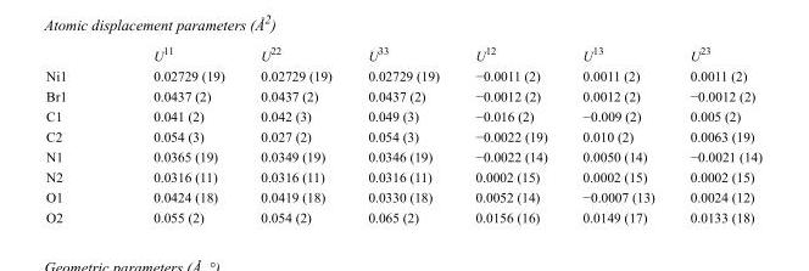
<table><thead><tr><td></td><td>U<sup>11</sup></td><td>U<sup>22</sup></td><td>U<sup>33</sup></td><td>U<sup>12</sup></td><td>U<sup>13</sup></td><td>U<sup>23</sup></td></tr></thead><tbody><tr><td>Ni1</td><td>0.02729 (19)</td><td>0.02729 (19)</td><td>0.02729 (19)</td><td>−0.0011 (2)</td><td>0.0011 (2)</td><td>0.0011 (2)</td></tr><tr><td>Br1</td><td>0.0437 (2)</td><td>0.0437 (2)</td><td>0.0437 (2)</td><td>−0.0012 (2)</td><td>0.0012 (2)</td><td>−0.0012 (2)</td></tr><tr><td>C1</td><td>0.041 (2)</td><td>0.042 (3)</td><td>0.049 (3)</td><td>−0.016 (2)</td><td>−0.009 (2)</td><td>0.005 (2)</td></tr><tr><td>C2</td><td>0.054 (3)</td><td>0.027 (2)</td><td>0.054 (3)</td><td>−0.0022 (19)</td><td>0.010 (2)</td><td>0.0063 (19)</td></tr><tr><td>N1</td><td>0.0365 (19)</td><td>0.0349 (19)</td><td>0.0346 (19)</td><td>−0.0022 (14)</td><td>0.0050 (14)</td><td>−0.0021 (14)</td></tr><tr><td>N2</td><td>0.0316 (11)</td><td>0.0316 (11)</td><td>0.0316 (11)</td><td>0.0002 (15)</td><td>0.0002 (15)</td><td>0.0002 (15)</td></tr><tr><td>O1</td><td>0.0424 (18)</td><td>0.0419 (18)</td><td>0.0330 (18)</td><td>0.0052 (14)</td><td>−0.0007 (13)</td><td>0.0024 (12)</td></tr><tr><td>O2</td><td>0.055 (2)</td><td>0.054 (2)</td><td>0.065 (2)</td><td>0.0156 (16)</td><td>0.0149 (17)</td><td>0.0133 (18)</td></tr></tbody></table>